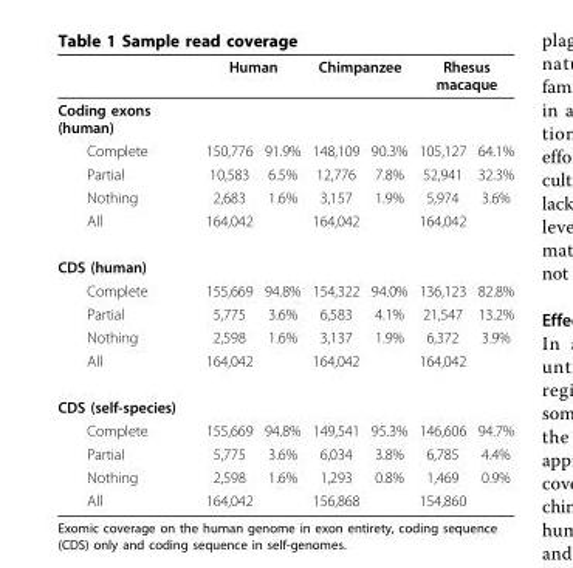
<table><thead><tr><td rowspan="2">Coding exons (human)</td><td colspan="2">Human</td><td colspan="2">Chimpanzee</td><td colspan="2">Rhesus macaque</td></tr><tr><td></td><td></td><td></td><td></td><td></td><td></td></tr></thead><tbody><tr><td>Complete</td><td>150,776</td><td>91.9%</td><td>148,109</td><td>90.3%</td><td>105,127</td><td>64.1%</td></tr><tr><td>Partial</td><td>10,583</td><td>6.5%</td><td>12,776</td><td>7.8%</td><td>52,941</td><td>32.3%</td></tr><tr><td>Nothing</td><td>2,683</td><td>1.6%</td><td>3,157</td><td>1.9%</td><td>5,974</td><td>3.6%</td></tr><tr><td>All</td><td>164,042</td><td></td><td>164,042</td><td></td><td>164,042</td><td></td></tr><tr><td colspan="7">CDS (human)</td></tr><tr><td>Complete</td><td>155,669</td><td>94.8%</td><td>154,322</td><td>94.0%</td><td>136,123</td><td>82.8%</td></tr><tr><td>Partial</td><td>5,775</td><td>3.6%</td><td>6,583</td><td>4.1%</td><td>21,547</td><td>13.2%</td></tr><tr><td>Nothing</td><td>2,598</td><td>1.6%</td><td>3,137</td><td>1.9%</td><td>6,372</td><td>3.9%</td></tr><tr><td>All</td><td>164,042</td><td></td><td>164,042</td><td></td><td>164,042</td><td></td></tr><tr><td colspan="7">CDS (self-species)</td></tr><tr><td>Complete</td><td>155,669</td><td>94.8%</td><td>149,541</td><td>95.3%</td><td>146,606</td><td>94.7%</td></tr><tr><td>Partial</td><td>5,775</td><td>3.6%</td><td>6,034</td><td>3.8%</td><td>6,785</td><td>4.4%</td></tr><tr><td>Nothing</td><td>2,598</td><td>1.6%</td><td>1,293</td><td>0.8%</td><td>1,469</td><td>0.9%</td></tr><tr><td>All</td><td>164,042</td><td></td><td>156,868</td><td></td><td>154,860</td><td></td></tr></tbody></table>